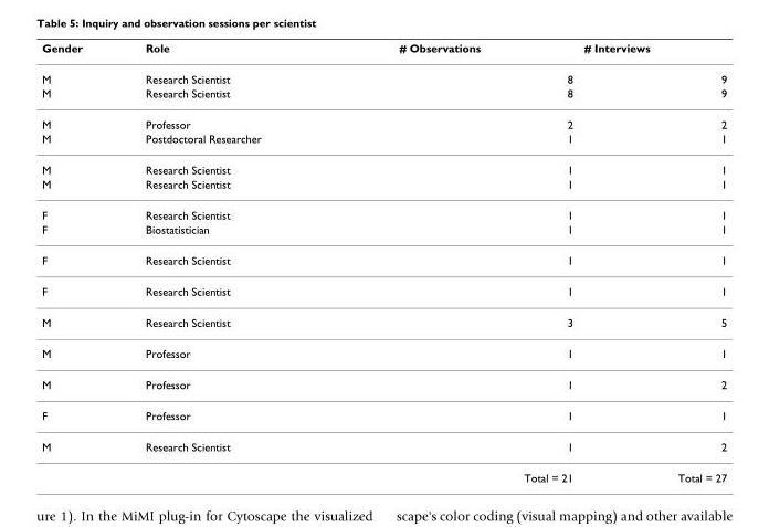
<table><thead><tr><td>Gender</td><td>Role</td><td># Observations</td><td># Interviews</td></tr></thead><tbody><tr><td>M</td><td>Research Scientist</td><td>8</td><td>9</td></tr><tr><td>M</td><td>Research Scientist</td><td>8</td><td>9</td></tr><tr><td>M</td><td>Professor</td><td>2</td><td>2</td></tr><tr><td>M</td><td>Postdoctoral Researcher</td><td>1</td><td>1</td></tr><tr><td>M</td><td>Research Scientist</td><td>1</td><td>1</td></tr><tr><td>M</td><td>Research Scientist</td><td>1</td><td>1</td></tr><tr><td>F</td><td>Research Scientist</td><td>1</td><td>1</td></tr><tr><td>F</td><td>Biostatistician</td><td>1</td><td>1</td></tr><tr><td>F</td><td>Research Scientist</td><td>1</td><td>1</td></tr><tr><td>F</td><td>Research Scientist</td><td>1</td><td>1</td></tr><tr><td>M</td><td>Research Scientist</td><td>3</td><td>5</td></tr><tr><td>M</td><td>Professor</td><td>1</td><td>1</td></tr><tr><td>M</td><td>Professor</td><td>1</td><td>2</td></tr><tr><td>F</td><td>Professor</td><td>1</td><td>1</td></tr><tr><td rowspan="2">M</td><td>Research Scientist</td><td>1</td><td>2</td></tr><tr><td></td><td>Total = 21</td><td>Total = 27</td></tr></tbody></table>